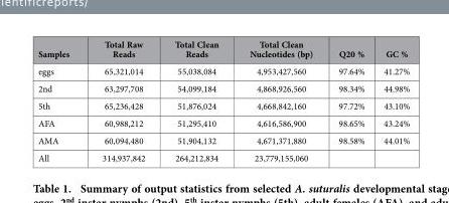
<table><thead><tr><td>Samples</td><td>Total Raw Reads</td><td>Total Clean Reads</td><td>Total Clean Nucleotides (bp)</td><td>Q20 %</td><td>GC %</td></tr></thead><tbody><tr><td>eggs</td><td>65,321,014</td><td>55,038,084</td><td>4,953,427,560</td><td>97.64%</td><td>41.27%</td></tr><tr><td>2nd</td><td>63,297,708</td><td>54,099,184</td><td>4,868,926,560</td><td>98.34%</td><td>44.98%</td></tr><tr><td>5th</td><td>65,236,428</td><td>51,876,024</td><td>4,668,842,160</td><td>97.72%</td><td>43.10%</td></tr><tr><td>AFA</td><td>60,988,212</td><td>51,295,410</td><td>4,616,586,900</td><td>98.65%</td><td>43.24%</td></tr><tr><td>AMA</td><td>60,094,480</td><td>51,904,132</td><td>4,671,371,880</td><td>98.58%</td><td>44.01%</td></tr><tr><td>All</td><td>314,937,842</td><td>264,212,834</td><td>23,779,155,060</td><td></td><td></td></tr></tbody></table>